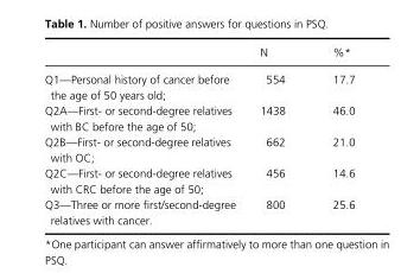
<table><thead><tr><td></td><td>N</td><td>%*</td></tr></thead><tbody><tr><td>Q1—Personal history of cancer before the age of 50 years old;</td><td>554</td><td>17.7</td></tr><tr><td>Q2A—First- or second- degree relatives with BC before the age of 50;</td><td>1438</td><td>46.0</td></tr><tr><td>Q2B—First- or second- degree relatives with OC;</td><td>662</td><td>21.0</td></tr><tr><td>Q2C—First- or second- degree relatives with CRC before the age of 50;</td><td>456</td><td>14.6</td></tr><tr><td>Q3—Three or more first/second- degree relatives with cancer.</td><td>800</td><td>25.6</td></tr></tbody></table>